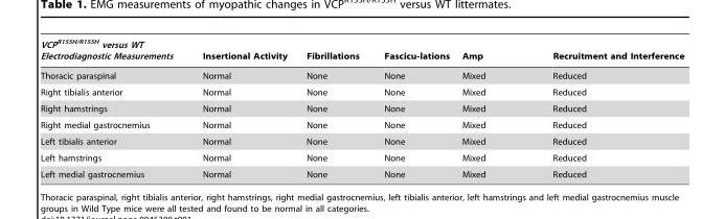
<table><thead><tr><td>VCP<sup>R155H/R155H</sup> versus WT Electrodiagnostic Measurements</td><td>Insertional Activity</td><td>Fibrillations</td><td>Fascicu-lations</td><td>Amp</td><td>Recruitment and Interference</td></tr></thead><tbody><tr><td>Thoracic paraspinal</td><td>Normal</td><td>None</td><td>None</td><td>Mixed</td><td>Reduced</td></tr><tr><td>Right tibialis anterior</td><td>Normal</td><td>None</td><td>None</td><td>Mixed</td><td>Reduced</td></tr><tr><td>Right hamstrings</td><td>Normal</td><td>None</td><td>None</td><td>Mixed</td><td>Reduced</td></tr><tr><td>Right medial gastrocnemius</td><td>Normal</td><td>None</td><td>None</td><td>Mixed</td><td>Reduced</td></tr><tr><td>Left tibialis anterior</td><td>Normal</td><td>None</td><td>None</td><td>Mixed</td><td>Reduced</td></tr><tr><td>Left hamstrings</td><td>Normal</td><td>None</td><td>None</td><td>Mixed</td><td>Reduced</td></tr><tr><td>Left medial gastrocnemius</td><td>Normal</td><td>None</td><td>None</td><td>Mixed</td><td>Reduced</td></tr></tbody></table>